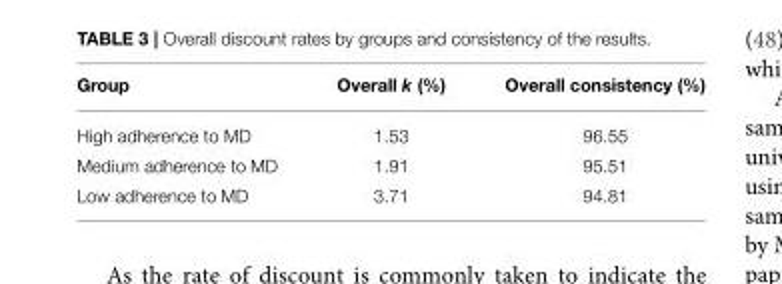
<table><thead><tr><td>Group</td><td>Overall k (%)</td><td>Overall consistency (%)</td></tr></thead><tbody><tr><td>High adherence to MD</td><td>1.53</td><td>96.55</td></tr><tr><td>Medium adherence to MD</td><td>1.91</td><td>95.51</td></tr><tr><td>Low adherence to MD</td><td>3.71</td><td>94.81</td></tr></tbody></table>